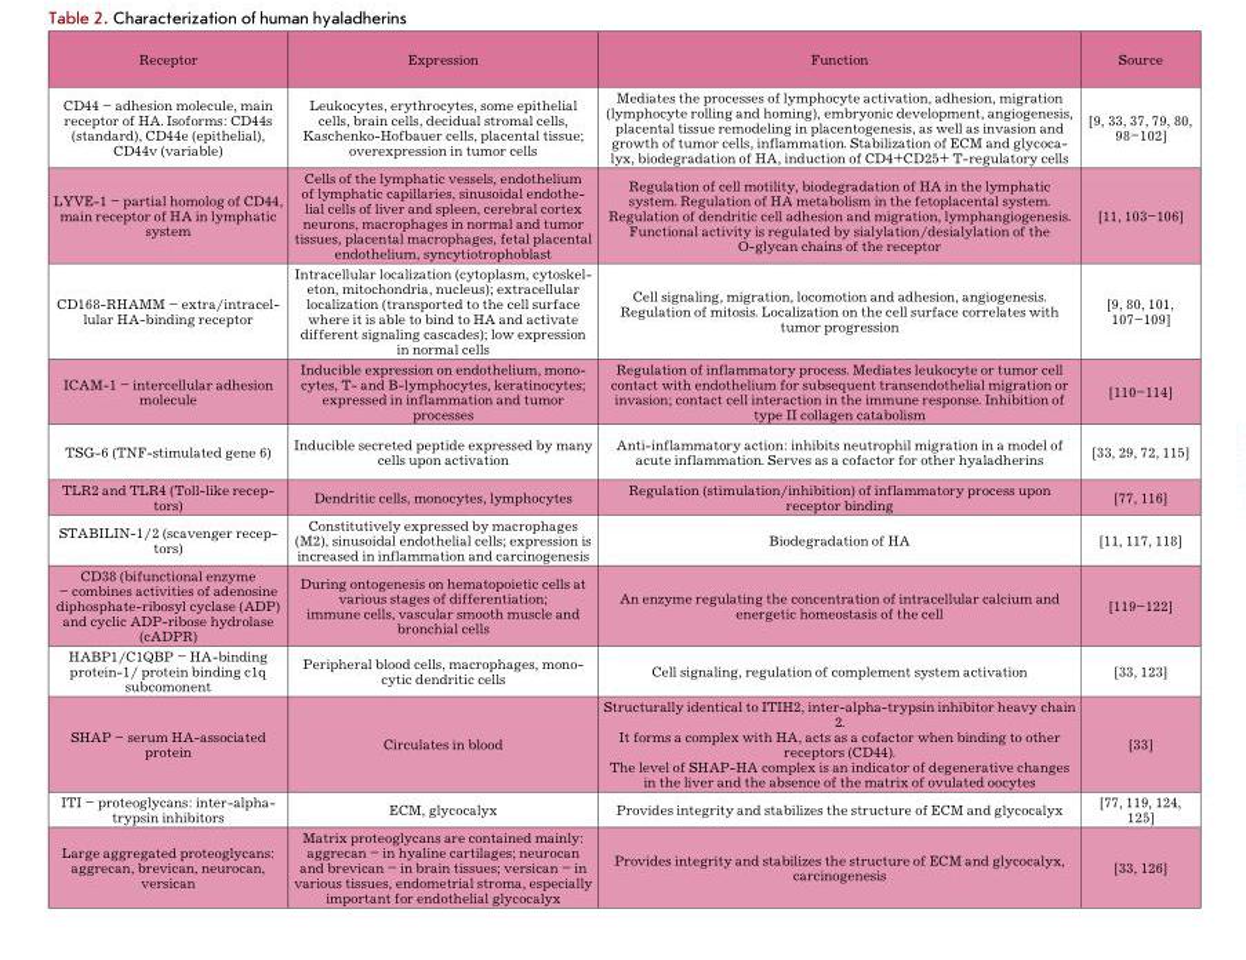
<table><thead><tr><td>Receptor</td><td>Expression</td><td>Function</td><td>Source</td></tr></thead><tbody><tr><td>CD44 – adhesion molecule, main receptor of HA. Isoforms: CD44s (standard), CD44e (epithelial), CD44v (variable)</td><td>Leukocytes, erythrocytes, some epithelial cells, brain cells, decidual stromal cells, Kaschenko-Hofbauer cells, placental tissue; overexpression in tumor cells</td><td>Mediates the processes of lymphocyte activation, adhesion, migration (lymphocyte rolling and homing), embryonic development, angiogenesis, placental tissue remodeling in placentogenesis, as well as invasion and growth of tumor cells, inflammation. Stabilization of ECM and glycoca- lyx, biodegradation of HA, induction of CD4+CD25+ T-regulatory cells</td><td>[9, 33, 37, 79, 80, 98–102]</td></tr><tr><td>LYVE-1 – partial homolog of CD44, main receptor of HA in lymphatic system</td><td>Cells of the lymphatic vessels, endothelium of lymphatic capillaries, sinusoidal endothe- lial cells of liver and spleen, cerebral cortex neurons, macrophages in normal and tumor tissues, placental macrophages, fetal placental endothelium, syncytiotrophoblast</td><td>Regulation of cell motility, biodegradation of HA in the lymphatic system. Regulation of HA metabolism in the fetoplacental system. Regulation of dendritic cell adhesion and migration, lymphangiogenesis. Functional activity is regulated by sialylation/desialylation of the O-glycan chains of the receptor</td><td>[11, 103–106]</td></tr><tr><td>CD168-RHAMM – extra/intracel- lular HA-binding receptor</td><td>Intracellular localization (cytoplasm, cytoskel- eton, mitochondria, nucleus); extracellular localization (transported to the cell surface where it is able to bind to HA and activate different signaling cascades); low expression in normal cells</td><td>Cell signaling, migration, locomotion and adhesion, angiogenesis. Regulation of mitosis. Localization on the cell surface correlates with tumor progression</td><td>[9, 80, 101, 107–109]</td></tr><tr><td>ICAM-1 – intercellular adhesion molecule</td><td>Inducible expression оn endothelium, mono- cytes, T- and B-lymphocytes, keratinocytes; expressed in inflammation and tumor processes</td><td>Regulation of inflammatory process. Mediates leukocyte or tumor cell contact with endothelium for subsequent transendothelial migration or invasion; contact cell interaction in the immune response. Inhibition of type II collagen catabolism</td><td>[110–114]</td></tr><tr><td>TSG-6 (TNF-stimulated gene 6)</td><td>Inducible secreted peptide expressed by many cells upon activation</td><td>Anti-inflammatory action: inhibits neutrophil migration in a model of acute inflammation. Serves as a cofactor for other hyaladherins</td><td>[33, 29, 72, 115]</td></tr><tr><td>TLR2 and TLR4 (Tоll-like recep- tors)</td><td>Dendritic cells, monocytes, lymphocytes</td><td>Regulation (stimulation/inhibition) of inflammatory process upon receptor binding</td><td>[77, 116]</td></tr><tr><td>STABILIN-1/2 (scavenger recep- tors)</td><td>Constitutively expressed by macrophages (M2), sinusoidal endothelial cells; expression is increased in inflammation and carcinogenesis</td><td>Biodegradation of HA</td><td>[11, 117, 118]</td></tr><tr><td>CD38 (bifunctional enzyme – combines activities of adenosine diphosphate-ribosyl cyclase (АDP) and cyclic ADP-ribose hydrolase (cADPR)</td><td>During ontogenesis on hematopoietic cells at various stages of differentiation; immune cells, vascular smooth muscle and bronchial cells</td><td>An enzyme regulating the concentration of intracellular calcium and energetic homeostasis of the cell</td><td>[119–122]</td></tr><tr><td>HABP1/C1QBP – HA-binding protein-1/ protein binding c1q subcomonent</td><td>Peripheral blood cells, macrophages, mono- cytic dendritic cells</td><td>Cell signaling, regulation of complement system activation</td><td>[33, 123]</td></tr><tr><td>SHAP – serum HA-associated protein</td><td>Circulates in blood</td><td>Structurally identical to ITIH2, inter-alpha-trypsin inhibitor heavy chain 2. It forms a complex with HA, acts as a cofactor when binding to other receptors (CD44). The level of SHAP-HA complex is an indicator of degenerative changes in the liver and the absence of the matrix of ovulated oocytes</td><td>[33]</td></tr><tr><td>ITI – proteoglycans: inter-alpha- trypsin inhibitors</td><td>ECM, glycocalyx</td><td>Provides integrity and stabilizes the structure of ECM and glycocalyx</td><td>[77, 119, 124, 125]</td></tr><tr><td>Large aggregated proteoglycans: aggrecan, brevican, neurocan, versican</td><td>Matrix proteoglycans are contained mainly: aggrecan – in hyaline cartilages; neurocan and brevican – in brain tissues; versican – in various tissues, endometrial stroma, especially important for endothelial glycocalyx</td><td>Provides integrity and stabilizes the structure of ECM and glycocalyx, carcinogenesis</td><td>[33, 126]</td></tr></tbody></table>